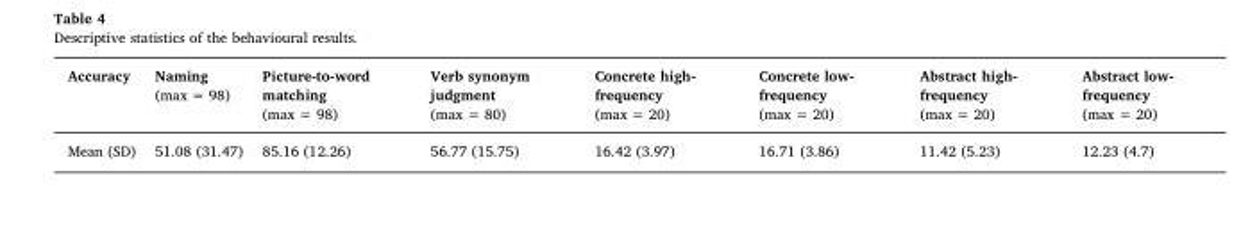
<table><thead><tr><td>Accuracy</td><td>Naming (max = 98)</td><td>Picture-to-word matching (max = 98)</td><td>Verb synonym judgment (max = 80)</td><td>Concrete high- frequency (max = 20)</td><td>Concrete low- frequency (max = 20)</td><td>Abstract high- frequency (max = 20)</td><td>Abstract low- frequency (max = 20)</td></tr></thead><tbody><tr><td>Mean (SD)</td><td>51.08 (31.47)</td><td>85.16 (12.26)</td><td>56.77 (15.75)</td><td>16.42 (3.97)</td><td>16.71 (3.86)</td><td>11.42 (5.23)</td><td>12.23 (4.7)</td></tr></tbody></table>